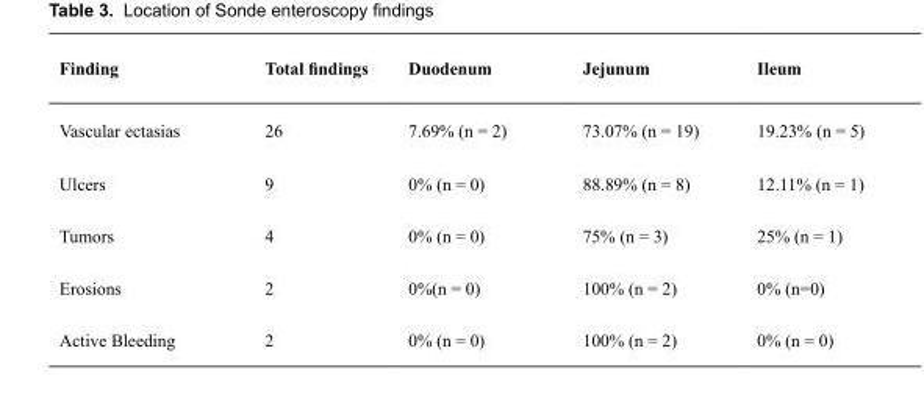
<table><thead><tr><td>Finding</td><td>Total findings</td><td>Duodenum</td><td>Jejunum</td><td>Ileum</td></tr></thead><tbody><tr><td>Vascular ectasias</td><td>26</td><td>7.69% (n = 2)</td><td>73.07% (n = 19)</td><td>19.23% (n = 5)</td></tr><tr><td>Ulcers</td><td>9</td><td>0% (n = 0)</td><td>88.89% (n = 8)</td><td>12.11% (n = 1)</td></tr><tr><td>Tumors</td><td>4</td><td>0% (n = 0)</td><td>75% (n = 3)</td><td>25% (n = 1)</td></tr><tr><td>Erosions</td><td>2</td><td>0%(n = 0)</td><td>100% (n = 2)</td><td>0% (n=0)</td></tr><tr><td>Active Bleeding</td><td>2</td><td>0% (n = 0)</td><td>100% (n = 2)</td><td>0% (n = 0)</td></tr></tbody></table>